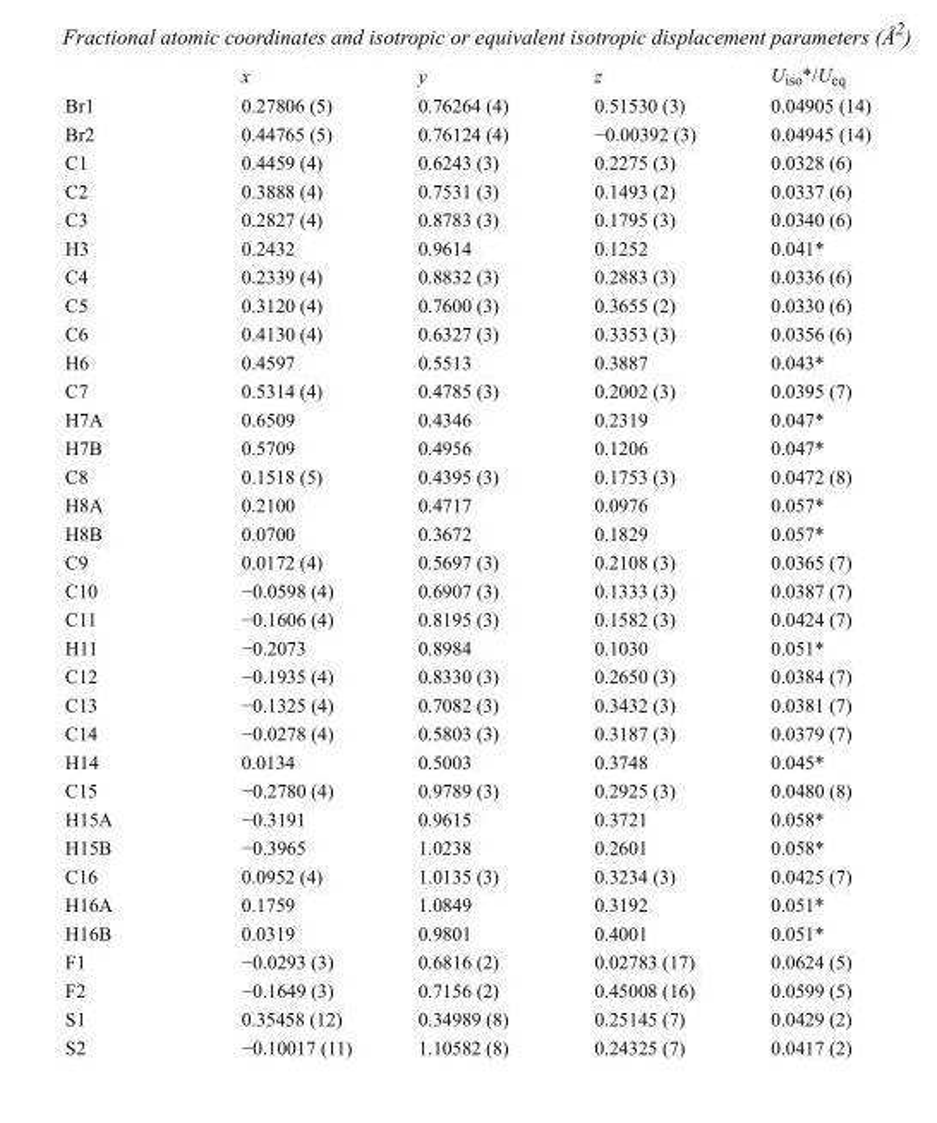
<table><thead><tr><td></td><td>x</td><td>y</td><td>z</td><td>U<sub>iso</sub>*/U<sub>eq</sub></td></tr></thead><tbody><tr><td>Br1</td><td>0.27806 (5)</td><td>0.76264 (4)</td><td>0.51530 (3)</td><td>0.04905 (14)</td></tr><tr><td>Br2</td><td>0.44765 (5)</td><td>0.76124 (4)</td><td>−0.00392 (3)</td><td>0.04945 (14)</td></tr><tr><td>C1</td><td>0.4459 (4)</td><td>0.6243 (3)</td><td>0.2275 (3)</td><td>0.0328 (6)</td></tr><tr><td>C2</td><td>0.3888 (4)</td><td>0.7531 (3)</td><td>0.1493 (2)</td><td>0.0337 (6)</td></tr><tr><td>C3</td><td>0.2827 (4)</td><td>0.8783 (3)</td><td>0.1795 (3)</td><td>0.0340 (6)</td></tr><tr><td>H3</td><td>0.2432</td><td>0.9614</td><td>0.1252</td><td>0.041*</td></tr><tr><td>C4</td><td>0.2339 (4)</td><td>0.8832 (3)</td><td>0.2883 (3)</td><td>0.0336 (6)</td></tr><tr><td>C5</td><td>0.3120 (4)</td><td>0.7600 (3)</td><td>0.3655 (2)</td><td>0.0330 (6)</td></tr><tr><td>C6</td><td>0.4130 (4)</td><td>0.6327 (3)</td><td>0.3353 (3)</td><td>0.0356 (6)</td></tr><tr><td>H6</td><td>0.4597</td><td>0.5513</td><td>0.3887</td><td>0.043*</td></tr><tr><td>C7</td><td>0.5314 (4)</td><td>0.4785 (3)</td><td>0.2002 (3)</td><td>0.0395 (7)</td></tr><tr><td>H7A</td><td>0.6509</td><td>0.4346</td><td>0.2319</td><td>0.047*</td></tr><tr><td>H7B</td><td>0.5709</td><td>0.4956</td><td>0.1206</td><td>0.047*</td></tr><tr><td>C8</td><td>0.1518 (5)</td><td>0.4395 (3)</td><td>0.1753 (3)</td><td>0.0472 (8)</td></tr><tr><td>H8A</td><td>0.2100</td><td>0.4717</td><td>0.0976</td><td>0.057*</td></tr><tr><td>H8B</td><td>0.0700</td><td>0.3672</td><td>0.1829</td><td>0.057*</td></tr><tr><td>C9</td><td>0.0172 (4)</td><td>0.5697 (3)</td><td>0.2108 (3)</td><td>0.0365 (7)</td></tr><tr><td>C10</td><td>−0.0598 (4)</td><td>0.6907 (3)</td><td>0.1333 (3)</td><td>0.0387 (7)</td></tr><tr><td>C11</td><td>−0.1606 (4)</td><td>0.8195 (3)</td><td>0.1582 (3)</td><td>0.0424 (7)</td></tr><tr><td>H11</td><td>−0.2073</td><td>0.8984</td><td>0.1030</td><td>0.051*</td></tr><tr><td>C12</td><td>−0.1935 (4)</td><td>0.8330 (3)</td><td>0.2650 (3)</td><td>0.0384 (7)</td></tr><tr><td>C13</td><td>−0.1325 (4)</td><td>0.7082 (3)</td><td>0.3432 (3)</td><td>0.0381 (7)</td></tr><tr><td>C14</td><td>−0.0278 (4)</td><td>0.5803 (3)</td><td>0.3187 (3)</td><td>0.0379 (7)</td></tr><tr><td>H14</td><td>0.0134</td><td>0.5003</td><td>0.3748</td><td>0.045*</td></tr><tr><td>C15</td><td>−0.2780 (4)</td><td>0.9789 (3)</td><td>0.2925 (3)</td><td>0.0480 (8)</td></tr><tr><td>H15A</td><td>−0.3191</td><td>0.9615</td><td>0.3721</td><td>0.058*</td></tr><tr><td>H15B</td><td>−0.3965</td><td>1.0238</td><td>0.2601</td><td>0.058*</td></tr><tr><td>C16</td><td>0.0952 (4)</td><td>1.0135 (3)</td><td>0.3234 (3)</td><td>0.0425 (7)</td></tr><tr><td>H16A</td><td>0.1759</td><td>1.0849</td><td>0.3192</td><td>0.051*</td></tr><tr><td>H16B</td><td>0.0319</td><td>0.9801</td><td>0.4001</td><td>0.051*</td></tr><tr><td>F1</td><td>−0.0293 (3)</td><td>0.6816 (2)</td><td>0.02783 (17)</td><td>0.0624 (5)</td></tr><tr><td>F2</td><td>−0.1649 (3)</td><td>0.7156 (2)</td><td>0.45008 (16)</td><td>0.0599 (5)</td></tr><tr><td>S1</td><td>0.35458 (12)</td><td>0.34989 (8)</td><td>0.25145 (7)</td><td>0.0429 (2)</td></tr><tr><td>S2</td><td>−0.10017 (11)</td><td>1.10582 (8)</td><td>0.24325 (7)</td><td>0.0417 (2)</td></tr></tbody></table>